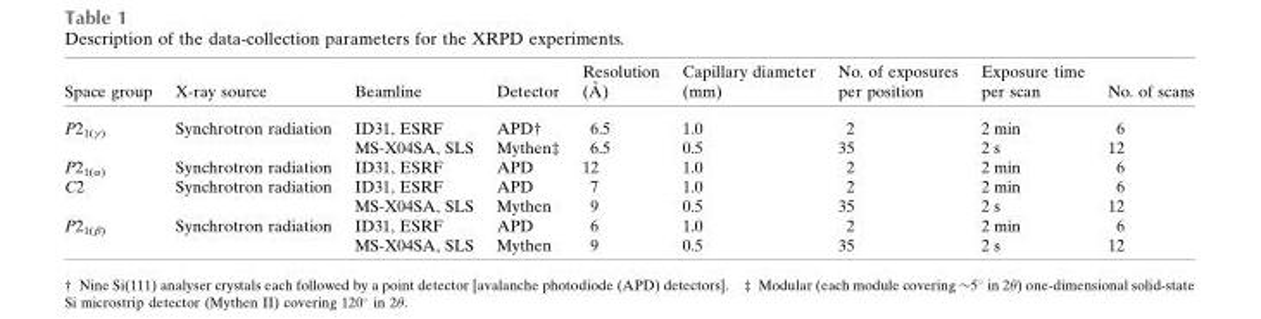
<table><thead><tr><td>Space group</td><td>X-ray source</td><td>Beamline</td><td>Detector</td><td>Resolution (A˚ )</td><td>Capillary diameter (mm)</td><td>No. of exposures per position</td><td>Exposure time per scan</td><td>No. of scans</td></tr></thead><tbody><tr><td rowspan="2">P21(�)</td><td rowspan="2">Synchrotron radiation</td><td>ID31, ESRF</td><td>APD†</td><td>6.5</td><td>1.0</td><td>2</td><td>2 min</td><td>6</td></tr><tr><td>MS-X04SA, SLS</td><td>Mythen‡</td><td>6.5</td><td>0.5</td><td>35</td><td>2 s</td><td>12</td></tr><tr><td>P21(�)</td><td>Synchrotron radiation</td><td>ID31, ESRF</td><td>APD</td><td>12</td><td>1.0</td><td>2</td><td>2 min</td><td>6</td></tr><tr><td rowspan="2">C2</td><td rowspan="2">Synchrotron radiation</td><td>ID31, ESRF</td><td>APD</td><td>7</td><td>1.0</td><td>2</td><td>2 min</td><td>6</td></tr><tr><td>MS-X04SA, SLS</td><td>Mythen</td><td>9</td><td>0.5</td><td>35</td><td>2 s</td><td>12</td></tr><tr><td rowspan="2">P21(�)</td><td rowspan="2">Synchrotron radiation</td><td>ID31, ESRF</td><td>APD</td><td>6</td><td>1.0</td><td>2</td><td>2 min</td><td>6</td></tr><tr><td>MS-X04SA, SLS</td><td>Mythen</td><td>9</td><td>0.5</td><td>35</td><td>2 s</td><td>12</td></tr></tbody></table>